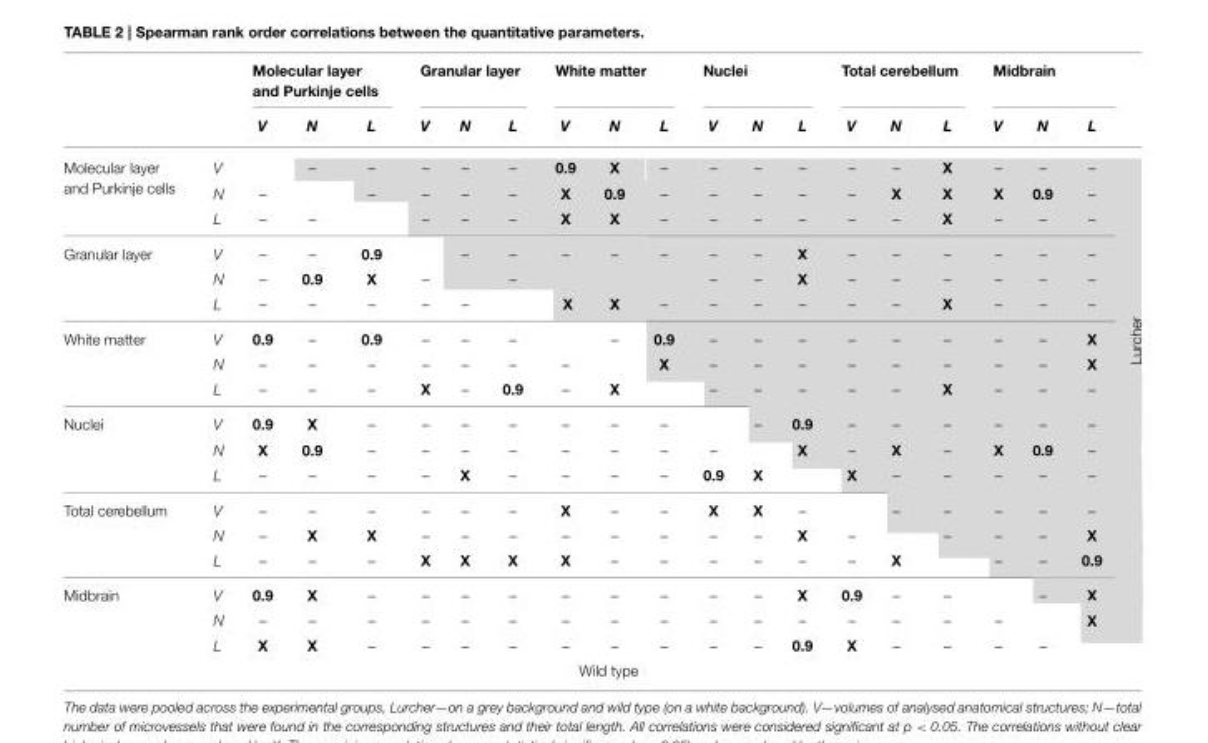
<table><thead><tr><td rowspan="2"></td><td rowspan="2"></td><td colspan="3">Molecular layer and Purkinje cells</td><td colspan="3">Granular layer</td><td colspan="3">White matter</td><td colspan="3">Nuclei</td><td colspan="3">Total cerebellum</td><td colspan="3">Midbrain</td><td rowspan="2"></td></tr><tr><td>V</td><td>N</td><td>L</td><td>V</td><td>N</td><td>L</td><td>V</td><td>N</td><td>L</td><td>V</td><td>N</td><td>L</td><td>V</td><td>N</td><td>L</td><td>V</td><td>N</td><td>L</td></tr></thead><tbody><tr><td rowspan="3">Molecular layer and Purkinje cells</td><td>V</td><td></td><td>–</td><td>–</td><td>–</td><td>–</td><td>–</td><td>0.9</td><td>X</td><td>–</td><td>–</td><td>–</td><td>–</td><td>–</td><td>–</td><td>X</td><td>–</td><td>–</td><td>–</td><td rowspan="18">Lurcher</td></tr><tr><td>N</td><td>–</td><td></td><td>–</td><td>–</td><td>–</td><td>–</td><td>X</td><td>0.9</td><td>–</td><td>–</td><td>–</td><td>–</td><td>–</td><td>X</td><td>X</td><td>X</td><td>0.9</td><td>–</td></tr><tr><td>L</td><td>–</td><td>–</td><td></td><td>–</td><td>–</td><td>–</td><td>X</td><td>X</td><td>–</td><td>–</td><td>–</td><td>–</td><td>–</td><td>–</td><td>X</td><td>–</td><td>–</td><td>–</td></tr><tr><td rowspan="3">Granular layer</td><td>V</td><td>–</td><td>–</td><td>0.9</td><td></td><td>–</td><td>–</td><td>–</td><td>–</td><td>–</td><td>–</td><td>–</td><td>X</td><td>–</td><td>–</td><td>–</td><td>–</td><td>–</td><td>–</td></tr><tr><td>N</td><td>–</td><td>0.9</td><td>X</td><td>–</td><td></td><td>–</td><td>–</td><td>–</td><td>–</td><td>–</td><td>–</td><td>X</td><td>–</td><td>–</td><td>–</td><td>–</td><td>–</td><td>–</td></tr><tr><td>L</td><td>–</td><td>–</td><td>–</td><td>–</td><td>–</td><td></td><td>X</td><td>X</td><td>–</td><td>–</td><td>–</td><td>–</td><td>–</td><td>–</td><td>X</td><td>–</td><td>–</td><td>–</td></tr><tr><td rowspan="3">White matter</td><td>V</td><td>0.9</td><td>–</td><td>0.9</td><td>–</td><td>–</td><td>–</td><td></td><td>–</td><td>0.9</td><td>–</td><td>–</td><td>–</td><td>–</td><td>–</td><td>–</td><td>–</td><td>–</td><td>X</td></tr><tr><td>N</td><td>–</td><td>–</td><td>–</td><td>–</td><td>–</td><td>–</td><td>–</td><td></td><td>X</td><td>–</td><td>–</td><td>–</td><td>–</td><td>–</td><td>–</td><td>–</td><td>–</td><td>X</td></tr><tr><td>L</td><td>–</td><td>–</td><td>–</td><td>X</td><td>–</td><td>0.9</td><td>–</td><td>X</td><td></td><td>–</td><td>–</td><td>–</td><td>–</td><td>–</td><td>X</td><td>–</td><td>–</td><td>–</td></tr><tr><td rowspan="3">Nuclei</td><td>V</td><td>0.9</td><td>X</td><td>–</td><td>–</td><td>–</td><td>–</td><td>–</td><td>–</td><td>–</td><td></td><td>–</td><td>0.9</td><td>–</td><td>–</td><td>–</td><td>–</td><td>–</td><td>–</td></tr><tr><td>N</td><td>X</td><td>0.9</td><td>–</td><td>–</td><td>–</td><td>–</td><td>–</td><td>–</td><td>–</td><td>–</td><td></td><td>X</td><td>–</td><td>X</td><td>–</td><td>X</td><td>0.9</td><td>–</td></tr><tr><td>L</td><td>–</td><td>–</td><td>–</td><td>–</td><td>X</td><td>–</td><td>–</td><td>–</td><td>–</td><td>0.9</td><td>X</td><td></td><td>X</td><td>–</td><td>–</td><td>–</td><td>–</td><td>–</td></tr><tr><td rowspan="3">Total cerebellum</td><td>V</td><td>–</td><td>–</td><td>–</td><td>–</td><td>–</td><td>–</td><td>X</td><td>–</td><td>–</td><td>X</td><td>X</td><td>–</td><td></td><td>–</td><td>–</td><td>–</td><td>–</td><td>–</td></tr><tr><td>N</td><td>–</td><td>X</td><td>X</td><td>–</td><td>–</td><td>–</td><td>–</td><td>–</td><td>–</td><td>–</td><td>–</td><td>X</td><td>–</td><td></td><td>–</td><td>–</td><td>–</td><td>X</td></tr><tr><td>L</td><td>–</td><td>–</td><td>–</td><td>X</td><td>X</td><td>X</td><td>X</td><td>–</td><td>–</td><td>–</td><td>–</td><td>–</td><td>–</td><td>X</td><td></td><td>–</td><td>–</td><td>0.9</td></tr><tr><td rowspan="3">Midbrain</td><td>V</td><td>0.9</td><td>X</td><td>–</td><td>–</td><td>–</td><td>–</td><td>–</td><td>–</td><td>–</td><td>–</td><td>–</td><td>X</td><td>0.9</td><td>–</td><td>–</td><td></td><td>–</td><td>X</td></tr><tr><td>N</td><td>–</td><td>–</td><td>–</td><td>–</td><td>–</td><td>–</td><td>–</td><td>–</td><td>–</td><td>–</td><td>–</td><td>–</td><td>–</td><td>–</td><td>–</td><td>–</td><td></td><td>X</td></tr><tr><td>L</td><td>X</td><td>X</td><td>–</td><td>–</td><td>–</td><td>–</td><td>–</td><td>–</td><td>–</td><td>–</td><td>–</td><td>0.9</td><td>X</td><td>–</td><td>–</td><td>–</td><td>–</td><td></td></tr><tr><td colspan="21">Wild type</td></tr></tbody></table>